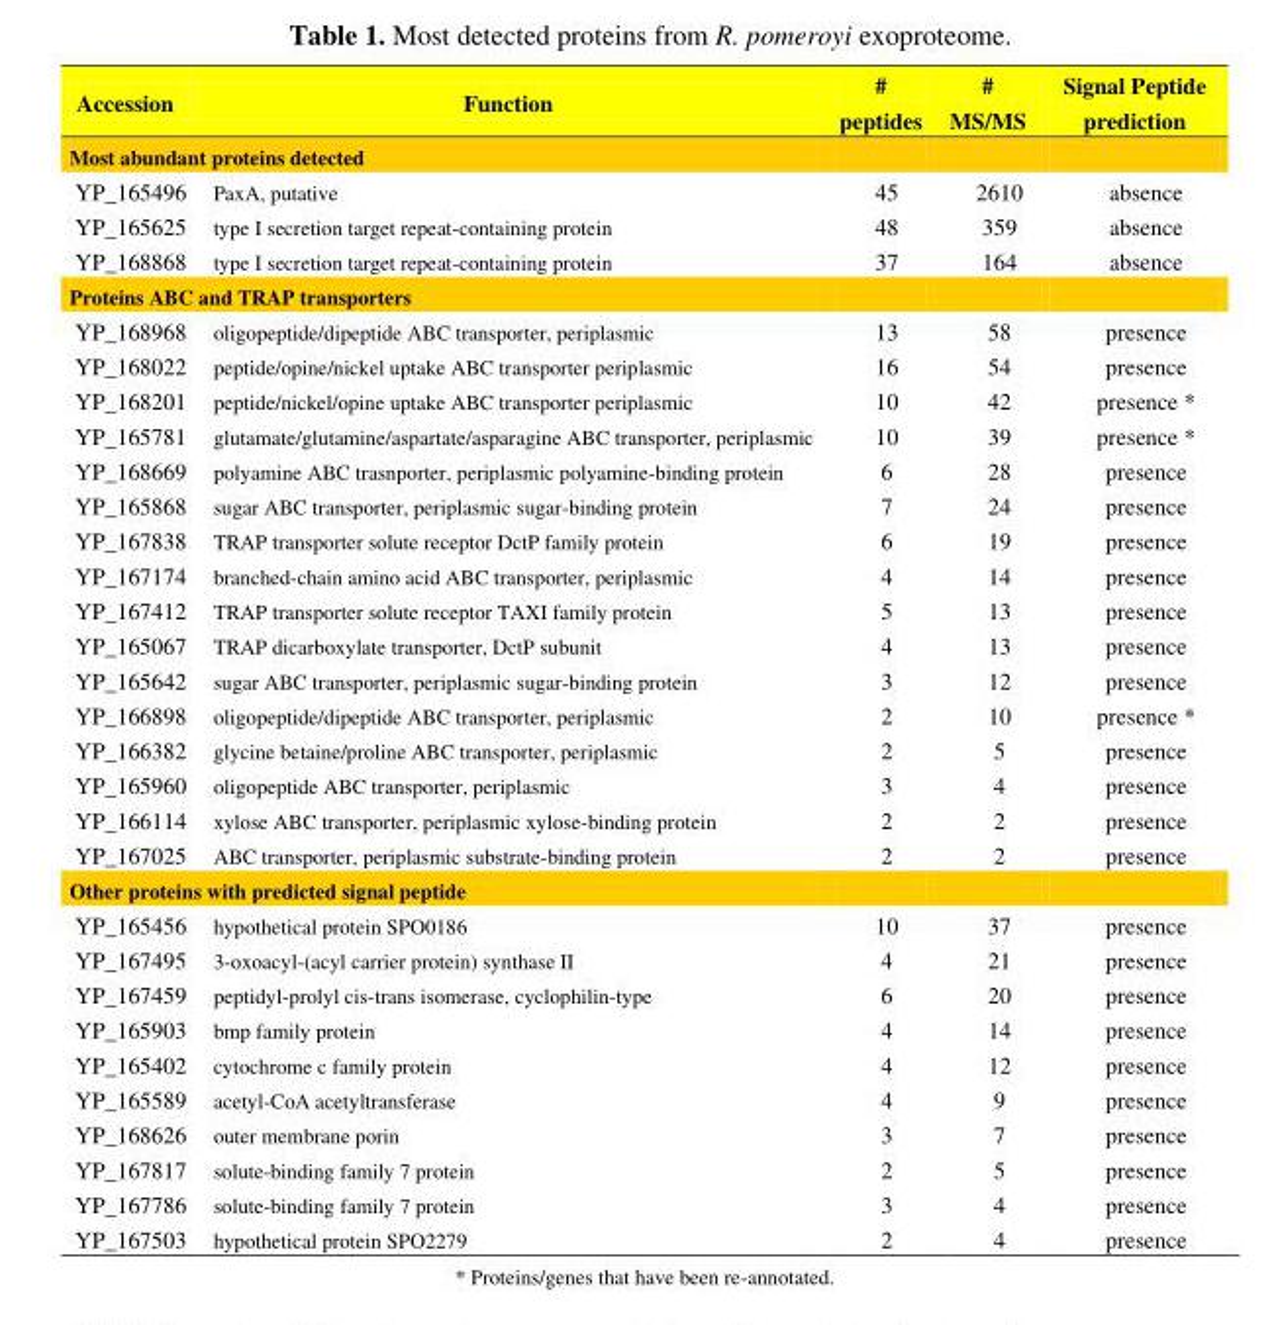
<table><thead><tr><td>Accession</td><td>Function</td><td># peptides</td><td># MS/MS</td><td>Signal Peptide prediction</td></tr></thead><tbody><tr><td colspan="5">Most abundant proteins detected</td></tr><tr><td>YP_165496</td><td>PaxA, putative</td><td>45</td><td>2610</td><td>absence</td></tr><tr><td>YP_165625</td><td>type I secretion target repeat-containing protein</td><td>48</td><td>359</td><td>absence</td></tr><tr><td>YP_168868</td><td>type I secretion target repeat-containing protein</td><td>37</td><td>164</td><td>absence</td></tr><tr><td colspan="5">Proteins ABC and TRAP transporters</td></tr><tr><td>YP_168968</td><td>oligopeptide/dipeptide ABC transporter, periplasmic</td><td>13</td><td>58</td><td>presence</td></tr><tr><td>YP_168022</td><td>peptide/opine/nickel uptake ABC transporter periplasmic</td><td>16</td><td>54</td><td>presence</td></tr><tr><td>YP_168201</td><td>peptide/nickel/opine uptake ABC transporter periplasmic</td><td>10</td><td>42</td><td>presence *</td></tr><tr><td>YP_165781</td><td>glutamate/glutamine/aspartate/asparagine ABC transporter, periplasmic</td><td>10</td><td>39</td><td>presence *</td></tr><tr><td>YP_168669</td><td>polyamine ABC trasnporter, periplasmic polyamine-binding protein</td><td>6</td><td>28</td><td>presence</td></tr><tr><td>YP_165868</td><td>sugar ABC transporter, periplasmic sugar-binding protein</td><td>7</td><td>24</td><td>presence</td></tr><tr><td>YP_167838</td><td>TRAP transporter solute receptor DctP family protein</td><td>6</td><td>19</td><td>presence</td></tr><tr><td>YP_167174</td><td>branched-chain amino acid ABC transporter, periplasmic</td><td>4</td><td>14</td><td>presence</td></tr><tr><td>YP_167412</td><td>TRAP transporter solute receptor TAXI family protein</td><td>5</td><td>13</td><td>presence</td></tr><tr><td>YP_165067</td><td>TRAP dicarboxylate transporter, DctP subunit</td><td>4</td><td>13</td><td>presence</td></tr><tr><td>YP_165642</td><td>sugar ABC transporter, periplasmic sugar-binding protein</td><td>3</td><td>12</td><td>presence</td></tr><tr><td>YP_166898</td><td>oligopeptide/dipeptide ABC transporter, periplasmic</td><td>2</td><td>10</td><td>presence *</td></tr><tr><td>YP_166382</td><td>glycine betaine/proline ABC transporter, periplasmic</td><td>2</td><td>5</td><td>presence</td></tr><tr><td>YP_165960</td><td>oligopeptide ABC transporter, periplasmic</td><td>3</td><td>4</td><td>presence</td></tr><tr><td>YP_166114</td><td>xylose ABC transporter, periplasmic xylose-binding protein</td><td>2</td><td>2</td><td>presence</td></tr><tr><td>YP_167025</td><td>ABC transporter, periplasmic substrate-binding protein</td><td>2</td><td>2</td><td>presence</td></tr><tr><td colspan="5">Other proteins with predicted signal peptide</td></tr><tr><td>YP_165456</td><td>hypothetical protein SPO0186</td><td>10</td><td>37</td><td>presence</td></tr><tr><td>YP_167495</td><td>3-oxoacyl-(acyl carrier protein) synthase II</td><td>4</td><td>21</td><td>presence</td></tr><tr><td>YP_167459</td><td>peptidyl-prolyl cis-trans isomerase, cyclophilin-type</td><td>6</td><td>20</td><td>presence</td></tr><tr><td>YP_165903</td><td>bmp family protein</td><td>4</td><td>14</td><td>presence</td></tr><tr><td>YP_165402</td><td>cytochrome c family protein</td><td>4</td><td>12</td><td>presence</td></tr><tr><td>YP_165589</td><td>acetyl-CoA acetyltransferase</td><td>4</td><td>9</td><td>presence</td></tr><tr><td>YP_168626</td><td>outer membrane porin</td><td>3</td><td>7</td><td>presence</td></tr><tr><td>YP_167817</td><td>solute-binding family 7 protein</td><td>2</td><td>5</td><td>presence</td></tr><tr><td>YP_167786</td><td>solute-binding family 7 protein</td><td>3</td><td>4</td><td>presence</td></tr><tr><td>YP_167503</td><td>hypothetical protein SPO2279</td><td>2</td><td>4</td><td>presence</td></tr></tbody></table>